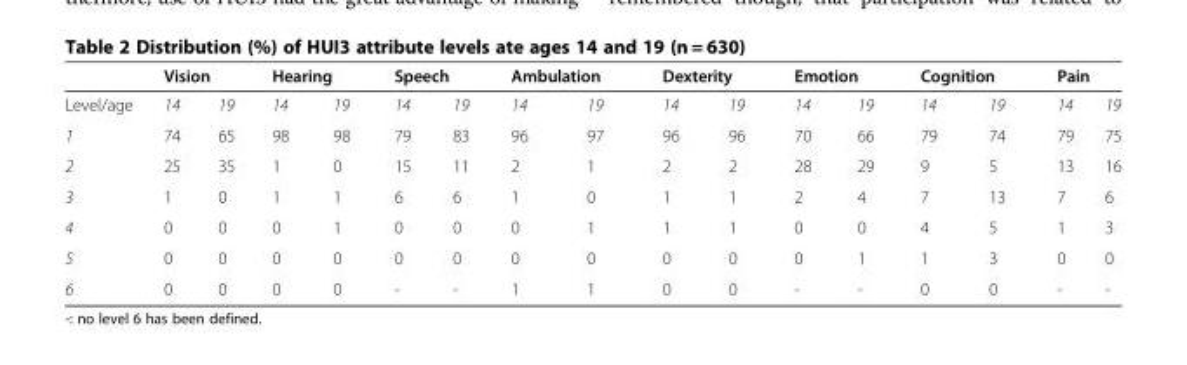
<table><thead><tr><td rowspan="2">Level/age</td><td colspan="2">Vision</td><td colspan="2">Hearing</td><td colspan="2">Speech</td><td colspan="2">Ambulation</td><td colspan="2">Dexterity</td><td colspan="2">Emotion</td><td colspan="2">Cognition</td><td colspan="2">Pain</td></tr><tr><td>14</td><td>19</td><td>14</td><td>19</td><td>14</td><td>19</td><td>14</td><td>19</td><td>14</td><td>19</td><td>14</td><td>19</td><td>14</td><td>19</td><td>14</td><td>19</td></tr></thead><tbody><tr><td>1</td><td>74</td><td>65</td><td>98</td><td>98</td><td>79</td><td>83</td><td>96</td><td>97</td><td>96</td><td>96</td><td>70</td><td>66</td><td>79</td><td>74</td><td>79</td><td>75</td></tr><tr><td>2</td><td>25</td><td>35</td><td>1</td><td>0</td><td>15</td><td>11</td><td>2</td><td>1</td><td>2</td><td>2</td><td>28</td><td>29</td><td>9</td><td>5</td><td>13</td><td>16</td></tr><tr><td>3</td><td>1</td><td>0</td><td>1</td><td>1</td><td>6</td><td>6</td><td>1</td><td>0</td><td>1</td><td>1</td><td>2</td><td>4</td><td>7</td><td>13</td><td>7</td><td>6</td></tr><tr><td>4</td><td>0</td><td>0</td><td>0</td><td>1</td><td>0</td><td>0</td><td>0</td><td>1</td><td>1</td><td>1</td><td>0</td><td>0</td><td>4</td><td>5</td><td>1</td><td>3</td></tr><tr><td>5</td><td>0</td><td>0</td><td>0</td><td>0</td><td>0</td><td>0</td><td>0</td><td>0</td><td>0</td><td>0</td><td>0</td><td>1</td><td>1</td><td>3</td><td>0</td><td>0</td></tr><tr><td>6</td><td>0</td><td>0</td><td>0</td><td>0</td><td>-</td><td>-</td><td>1</td><td>1</td><td>0</td><td>0</td><td>-</td><td>-</td><td>0</td><td>0</td><td>-</td><td>-</td></tr></tbody></table>